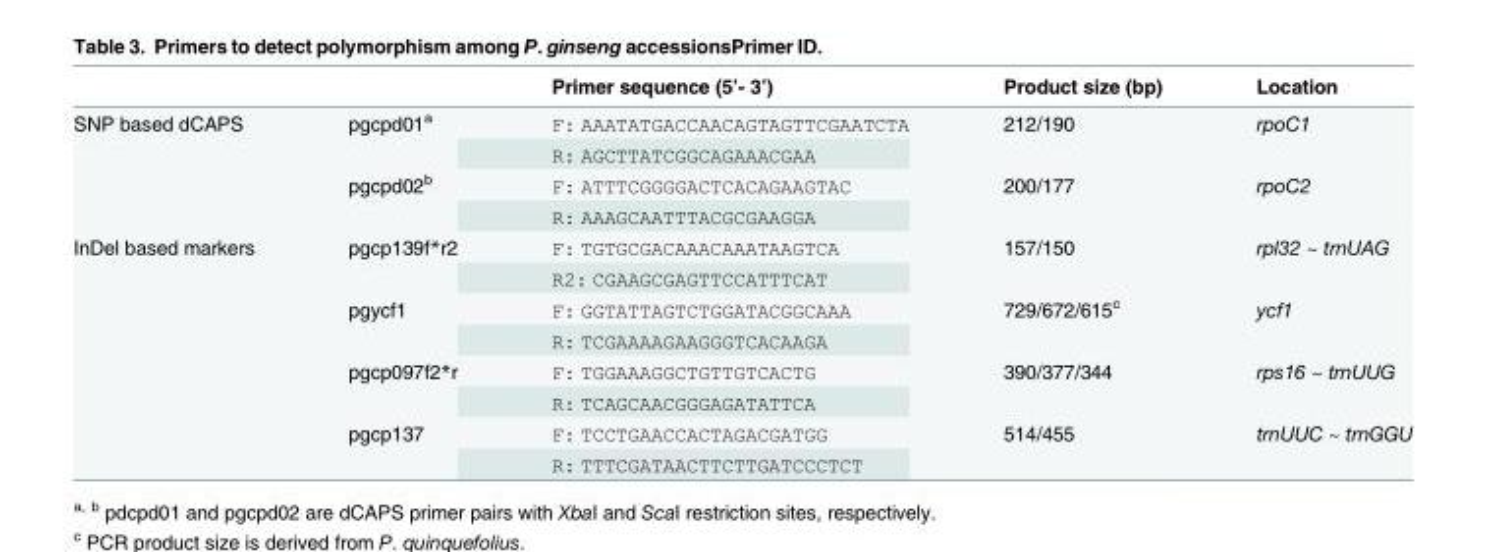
<table><thead><tr><td></td><td></td><td>Primer sequence (5’- 3’)</td><td>Product size (bp)</td><td>Location</td></tr></thead><tbody><tr><td rowspan="4">SNP based dCAPS</td><td rowspan="2">pgcpd01<sup>a</sup></td><td>F: AAATATGACCAACAGTAGTTCGAATCTA</td><td rowspan="2">212/190</td><td rowspan="2">rpoC1</td></tr><tr><td>R: AGCTTATCGGCAGAAACGAA</td></tr><tr><td rowspan="2">pgcpd02<sup>b</sup></td><td>F: ATTTCGGGGACTCACAGAAGTAC</td><td rowspan="2">200/177</td><td rowspan="2">rpoC2</td></tr><tr><td>R: AAAGCAATTTACGCGAAGGA</td></tr><tr><td rowspan="8">InDel based markers</td><td rowspan="2">pgcp139f*r2</td><td>F: TGTGCGACAAACAAATAAGTCA</td><td rowspan="2">157/150</td><td rowspan="2">rpl32 ~ trnUAG</td></tr><tr><td>R2: CGAAGCGAGTTCCATTTCAT</td></tr><tr><td rowspan="2">pgycf1</td><td>F: GGTATTAGTCTGGATACGGCAAA</td><td rowspan="2">729/672/615<sup>c</sup></td><td rowspan="2">ycf1</td></tr><tr><td>R: TCGAAAAGAAGGGTCACAAGA</td></tr><tr><td rowspan="2">pgcp097f2*r</td><td>F: TGGAAAGGCTGTTGTCACTG</td><td rowspan="2">390/377/344</td><td rowspan="2">rps16 ~ trnUUG</td></tr><tr><td>R: TCAGCAACGGGAGATATTCA</td></tr><tr><td rowspan="2">pgcp137</td><td>F: TCCTGAACCACTAGACGATGG</td><td rowspan="2">514/455</td><td rowspan="2">trnUUC ~ trnGGU</td></tr><tr><td>R: TTTCGATAACTTCTTGATCCCTCT</td></tr></tbody></table>